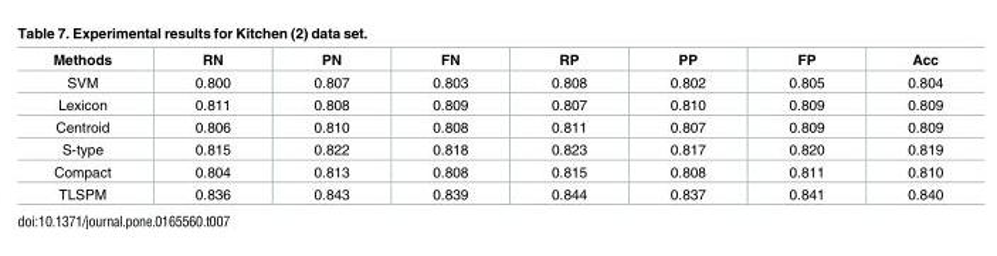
<table><thead><tr><td>Methods</td><td>RN</td><td>PN</td><td>FN</td><td>RP</td><td>PP</td><td>FP</td><td>Acc</td></tr></thead><tbody><tr><td>SVM</td><td>0.800</td><td>0.807</td><td>0.803</td><td>0.808</td><td>0.802</td><td>0.805</td><td>0.804</td></tr><tr><td>Lexicon</td><td>0.811</td><td>0.808</td><td>0.809</td><td>0.807</td><td>0.810</td><td>0.809</td><td>0.809</td></tr><tr><td>Centroid</td><td>0.806</td><td>0.810</td><td>0.808</td><td>0.811</td><td>0.807</td><td>0.809</td><td>0.809</td></tr><tr><td>S-type</td><td>0.815</td><td>0.822</td><td>0.818</td><td>0.823</td><td>0.817</td><td>0.820</td><td>0.819</td></tr><tr><td>Compact</td><td>0.804</td><td>0.813</td><td>0.808</td><td>0.815</td><td>0.808</td><td>0.811</td><td>0.810</td></tr><tr><td>TLSPM</td><td>0.836</td><td>0.843</td><td>0.839</td><td>0.844</td><td>0.837</td><td>0.841</td><td>0.840</td></tr></tbody></table>